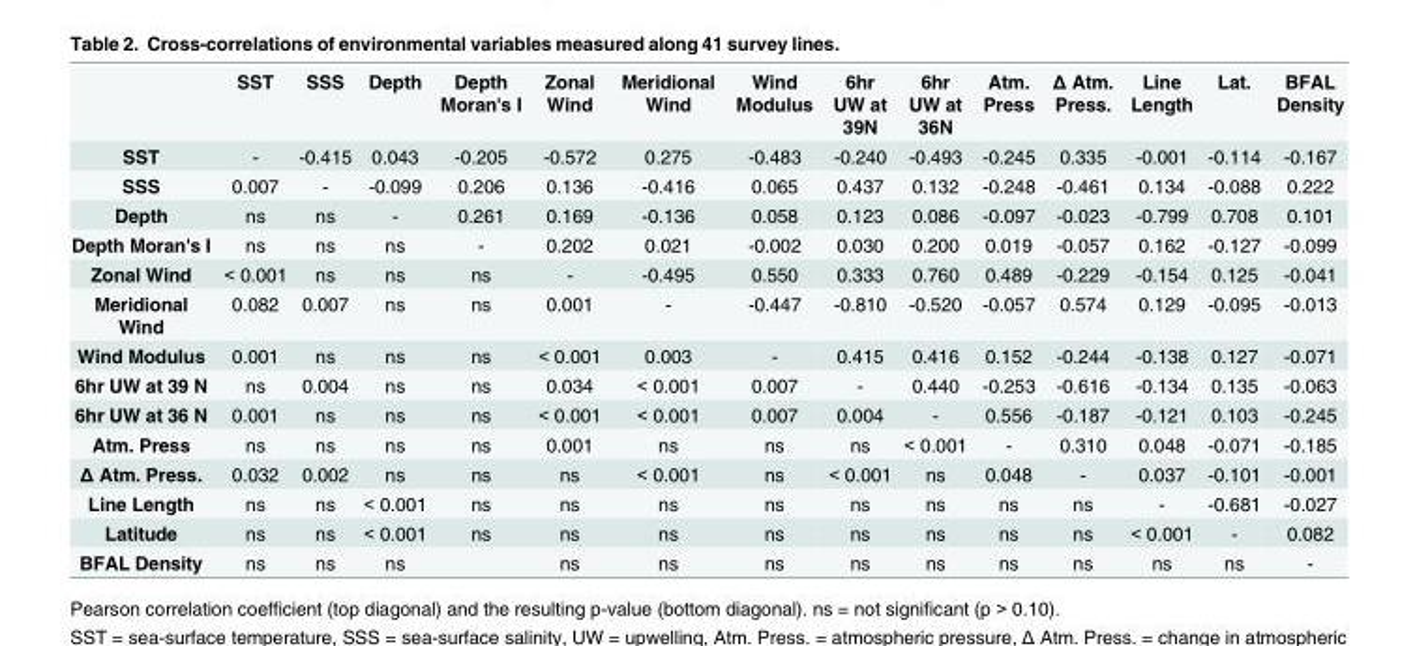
<table><thead><tr><td></td><td>SST</td><td>SSS</td><td>Depth</td><td>Depth Moran&#x27;s I</td><td>Zonal Wind</td><td>Meridional Wind</td><td>Wind Modulus</td><td>6hr UW at 39N</td><td>6hr UW at 36N</td><td>Atm. Press</td><td>Δ Atm. Press.</td><td>Line Length</td><td>Lat.</td><td>BFAL Density</td></tr></thead><tbody><tr><td>SST</td><td>-</td><td>-0.415</td><td>0.043</td><td>-0.205</td><td>-0.572</td><td>0.275</td><td>-0.483</td><td>-0.240</td><td>-0.493</td><td>-0.245</td><td>0.335</td><td>-0.001</td><td>-0.114</td><td>-0.167</td></tr><tr><td>SSS</td><td>0.007</td><td>-</td><td>-0.099</td><td>0.206</td><td>0.136</td><td>-0.416</td><td>0.065</td><td>0.437</td><td>0.132</td><td>-0.248</td><td>-0.461</td><td>0.134</td><td>-0.088</td><td>0.222</td></tr><tr><td>Depth</td><td>ns</td><td>ns</td><td>-</td><td>0.261</td><td>0.169</td><td>-0.136</td><td>0.058</td><td>0.123</td><td>0.086</td><td>-0.097</td><td>-0.023</td><td>-0.799</td><td>0.708</td><td>0.101</td></tr><tr><td>Depth Moran&#x27;s I</td><td>ns</td><td>ns</td><td>ns</td><td>-</td><td>0.202</td><td>0.021</td><td>-0.002</td><td>0.030</td><td>0.200</td><td>0.019</td><td>-0.057</td><td>0.162</td><td>-0.127</td><td>-0.099</td></tr><tr><td>Zonal Wind</td><td>&lt; 0.001</td><td>ns</td><td>ns</td><td>ns</td><td>-</td><td>-0.495</td><td>0.550</td><td>0.333</td><td>0.760</td><td>0.489</td><td>-0.229</td><td>-0.154</td><td>0.125</td><td>-0.041</td></tr><tr><td>Meridional Wind</td><td>0.082</td><td>0.007</td><td>ns</td><td>ns</td><td>0.001</td><td>-</td><td>-0.447</td><td>-0.810</td><td>-0.520</td><td>-0.057</td><td>0.574</td><td>0.129</td><td>-0.095</td><td>-0.013</td></tr><tr><td>Wind Modulus</td><td>0.001</td><td>ns</td><td>ns</td><td>ns</td><td>&lt; 0.001</td><td>0.003</td><td>-</td><td>0.415</td><td>0.416</td><td>0.152</td><td>-0.244</td><td>-0.138</td><td>0.127</td><td>-0.071</td></tr><tr><td>6hr UW at 39 N</td><td>ns</td><td>0.004</td><td>ns</td><td>ns</td><td>0.034</td><td>&lt; 0.001</td><td>0.007</td><td>-</td><td>0.440</td><td>-0.253</td><td>-0.616</td><td>-0.134</td><td>0.135</td><td>-0.063</td></tr><tr><td>6hr UW at 36 N</td><td>0.001</td><td>ns</td><td>ns</td><td>ns</td><td>&lt; 0.001</td><td>&lt; 0.001</td><td>0.007</td><td>0.004</td><td>-</td><td>0.556</td><td>-0.187</td><td>-0.121</td><td>0.103</td><td>-0.245</td></tr><tr><td>Atm. Press</td><td>ns</td><td>ns</td><td>ns</td><td>ns</td><td>0.001</td><td>ns</td><td>ns</td><td>ns</td><td>&lt; 0.001</td><td>-</td><td>0.310</td><td>0.048</td><td>-0.071</td><td>-0.185</td></tr><tr><td>Δ Atm. Press.</td><td>0.032</td><td>0.002</td><td>ns</td><td>ns</td><td>ns</td><td>&lt; 0.001</td><td>ns</td><td>&lt; 0.001</td><td>ns</td><td>0.048</td><td>-</td><td>0.037</td><td>-0.101</td><td>-0.001</td></tr><tr><td>Line Length</td><td>ns</td><td>ns</td><td>&lt; 0.001</td><td>ns</td><td>ns</td><td>ns</td><td>ns</td><td>ns</td><td>ns</td><td>ns</td><td>ns</td><td>-</td><td>-0.681</td><td>-0.027</td></tr><tr><td>Latitude</td><td>ns</td><td>ns</td><td>&lt; 0.001</td><td>ns</td><td>ns</td><td>ns</td><td>ns</td><td>ns</td><td>ns</td><td>ns</td><td>ns</td><td>&lt; 0.001</td><td>-</td><td>0.082</td></tr><tr><td>BFAL Density</td><td>ns</td><td>ns</td><td>ns</td><td></td><td>ns</td><td>ns</td><td>ns</td><td>ns</td><td>ns</td><td>ns</td><td>ns</td><td>ns</td><td>ns</td><td>-</td></tr></tbody></table>